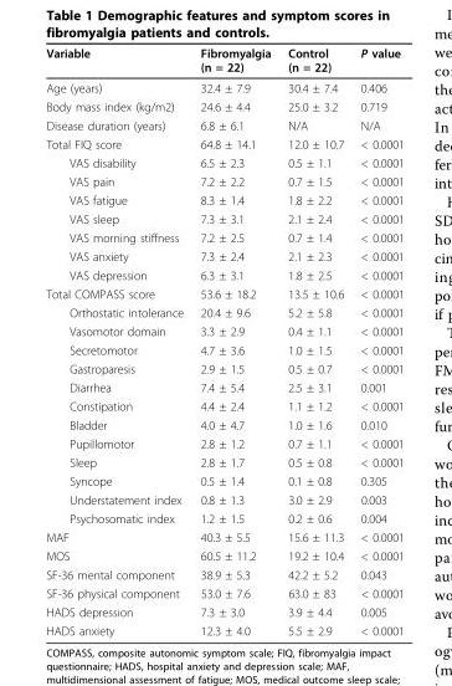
<table><thead><tr><td>Variable</td><td>Fibromyalgia (n = 22)</td><td>Control (n = 22)</td><td>P value</td></tr></thead><tbody><tr><td>Age (years)</td><td>32.4 ± 7.9</td><td>30.4 ± 7.4</td><td>0.406</td></tr><tr><td>Body mass index (kg/m2)</td><td>24.6 ± 4.4</td><td>25.0 ± 3.2</td><td>0.719</td></tr><tr><td>Disease duration (years)</td><td>6.8 ± 6.1</td><td>N/A</td><td>N/A</td></tr><tr><td>Total FIQ score</td><td>64.8 ± 14.1</td><td>12.0 ± 10.7</td><td>&lt; 0.0001</td></tr><tr><td>VAS disability</td><td>6.5 ± 2.3</td><td>0.5 ± 1.1</td><td>&lt; 0.0001</td></tr><tr><td>VAS pain</td><td>7.2 ± 2.2</td><td>0.7 ± 1.5</td><td>&lt; 0.0001</td></tr><tr><td>VAS fatigue</td><td>8.3 ± 1.4</td><td>1.8 ± 2.2</td><td>&lt; 0.0001</td></tr><tr><td>VAS sleep</td><td>7.3 ± 3.1</td><td>2.1 ± 2.4</td><td>&lt; 0.0001</td></tr><tr><td>VAS morning stiffness</td><td>7.2 ± 2.5</td><td>0.7 ± 1.4</td><td>&lt; 0.0001</td></tr><tr><td>VAS anxiety</td><td>7.3 ± 2.4</td><td>2.1 ± 2.3</td><td>&lt; 0.0001</td></tr><tr><td>VAS depression</td><td>6.3 ± 3.1</td><td>1.8 ± 2.5</td><td>&lt; 0.0001</td></tr><tr><td>Total COMPASS score</td><td>53.6 ± 18.2</td><td>13.5 ± 10.6</td><td>&lt; 0.0001</td></tr><tr><td>Orthostatic intolerance</td><td>20.4 ± 9.6</td><td>5.2 ± 5.8</td><td>&lt; 0.0001</td></tr><tr><td>Vasomotor domain</td><td>3.3 ± 2.9</td><td>0.4 ± 1.1</td><td>&lt; 0.0001</td></tr><tr><td>Secretomotor</td><td>4.7 ± 3.6</td><td>1.0 ± 1.5</td><td>&lt; 0.0001</td></tr><tr><td>Gastroparesis</td><td>2.9 ± 1.5</td><td>0.5 ± 0.7</td><td>&lt; 0.0001</td></tr><tr><td>Diarrhea</td><td>7.4 ± 5.4</td><td>2.5 ± 3.1</td><td>0.001</td></tr><tr><td>Constipation</td><td>4.4 ± 2.4</td><td>1.1 ± 1.2</td><td>&lt; 0.0001</td></tr><tr><td>Bladder</td><td>4.0 ± 4.7</td><td>1.0 ± 1.6</td><td>0.010</td></tr><tr><td>Pupillomotor</td><td>2.8 ± 1.2</td><td>0.7 ± 1.1</td><td>&lt; 0.0001</td></tr><tr><td>Sleep</td><td>2.8 ± 1.7</td><td>0.5 ± 0.8</td><td>&lt; 0.0001</td></tr><tr><td>Syncope</td><td>0.5 ± 1.4</td><td>0.1 ± 0.8</td><td>0.305</td></tr><tr><td>Understatement index</td><td>0.8 ± 1.3</td><td>3.0 ± 2.9</td><td>0.003</td></tr><tr><td>Psychosomatic index</td><td>1.2 ± 1.5</td><td>0.2 ± 0.6</td><td>0.004</td></tr><tr><td>MAF</td><td>40.3 ± 5.5</td><td>15.6 ± 11.3</td><td>&lt; 0.0001</td></tr><tr><td>MOS</td><td>60.5 ± 11.2</td><td>19.2 ± 10.4</td><td>&lt; 0.0001</td></tr><tr><td>SF-36 mental component</td><td>38.9 ± 5.3</td><td>42.2 ± 5.2</td><td>0.043</td></tr><tr><td>SF-36 physical component</td><td>53.0 ± 7.6</td><td>63.0 ± 83</td><td>&lt; 0.0001</td></tr><tr><td>HADS depression</td><td>7.3 ± 3.0</td><td>3.9 ± 4.4</td><td>0.005</td></tr><tr><td>HADS anxiety</td><td>12.3 ± 4.0</td><td>5.5 ± 2.9</td><td>&lt; 0.0001</td></tr></tbody></table>